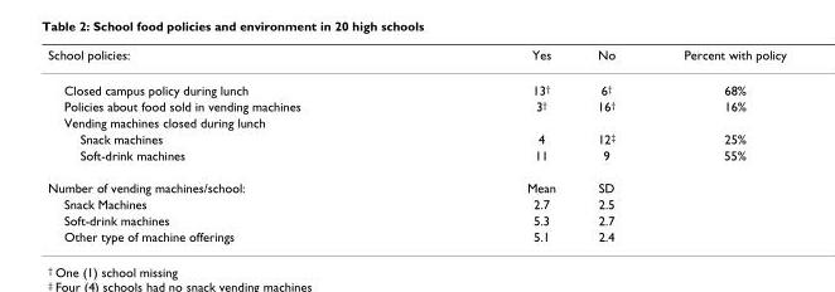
<table><thead><tr><td>School policies:</td><td>Yes</td><td>No</td><td>Percent with policy</td></tr></thead><tbody><tr><td>Closed campus policy during lunch</td><td>13<sup>†</sup></td><td>6<sup>†</sup></td><td>68%</td></tr><tr><td>Policies about food sold in vending machines</td><td>3<sup>†</sup></td><td>16<sup>†</sup></td><td>16%</td></tr><tr><td colspan="4">Vending machines closed during lunch</td></tr><tr><td>Snack machines</td><td>4</td><td>12<sup>‡</sup></td><td>25%</td></tr><tr><td>Soft-drink machines</td><td>11</td><td>9</td><td>55%</td></tr><tr><td>Number of vending machines/school:</td><td>Mean</td><td>SD</td><td></td></tr><tr><td>Snack Machines</td><td>2.7</td><td>2.5</td><td></td></tr><tr><td>Soft-drink machines</td><td>5.3</td><td>2.7</td><td></td></tr><tr><td>Other type of machine offerings</td><td>5.1</td><td>2.4</td><td></td></tr></tbody></table>